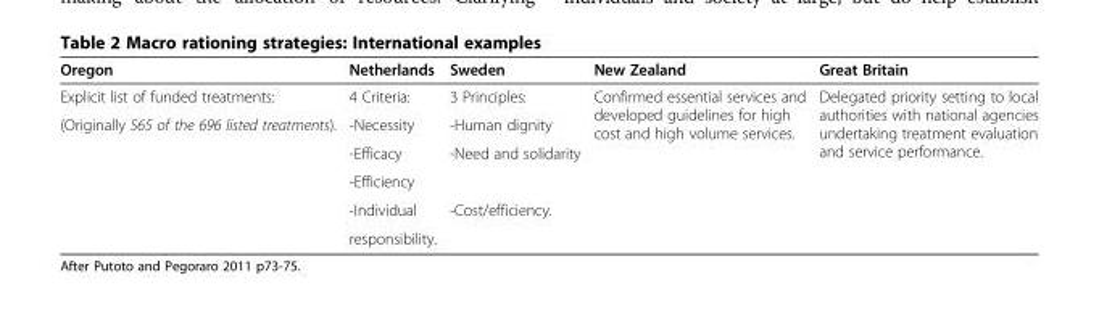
<table><thead><tr><td>Oregon</td><td>Netherlands</td><td>Sweden</td><td>New Zealand</td><td>Great Britain</td></tr></thead><tbody><tr><td>Explicit list of funded treatments:</td><td>4 Criteria:</td><td>3 Principles:</td><td rowspan="6">Confirmed essential services and developed guidelines for high cost and high volume services.</td><td rowspan="6">Delegated priority setting to local authorities with national agencies undertaking treatment evaluation and service performance.</td></tr><tr><td rowspan="5">(Originally 565 of the 696 listed treatments).</td><td>-Necessity</td><td>-Human dignity</td></tr><tr><td>-Efficacy</td><td rowspan="2">-Need and solidarity</td></tr><tr><td>-Efficiency</td></tr><tr><td>-Individual</td><td rowspan="2">-Cost/efficiency.</td></tr><tr><td>responsibility.</td></tr></tbody></table>